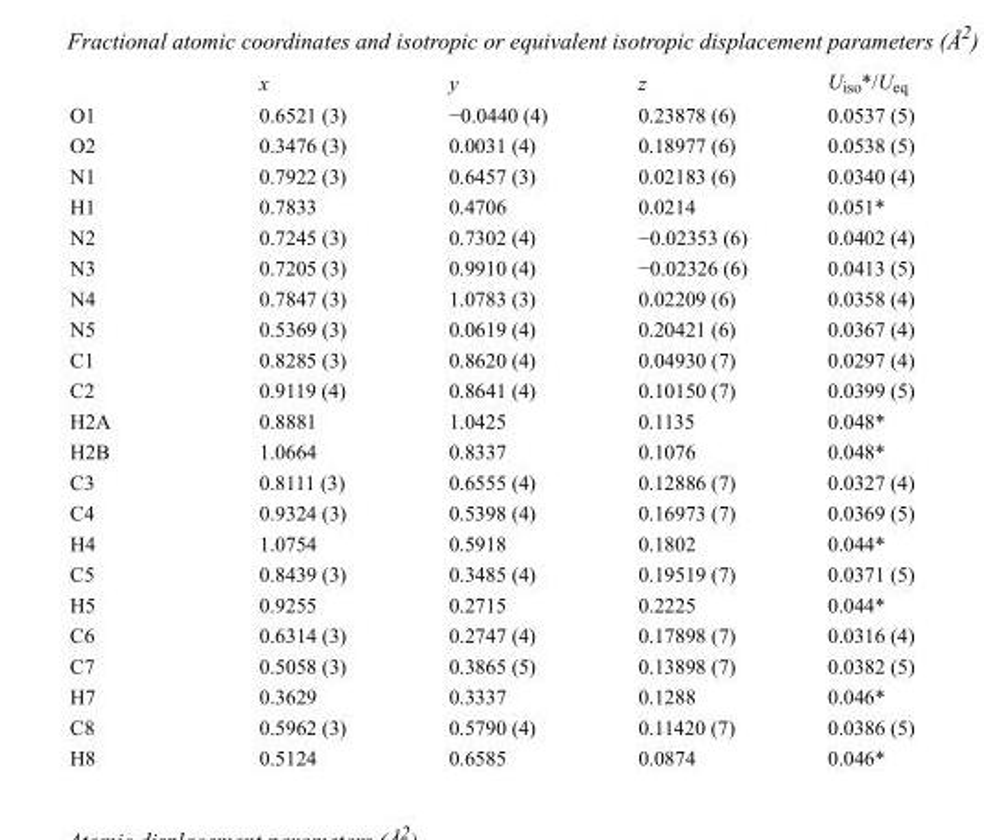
<table><thead><tr><td></td><td>x</td><td>y</td><td>z</td><td>U<sub>iso</sub>*/U<sub>eq</sub></td></tr></thead><tbody><tr><td>O1</td><td>0.6521 (3)</td><td>−0.0440 (4)</td><td>0.23878 (6)</td><td>0.0537 (5)</td></tr><tr><td>O2</td><td>0.3476 (3)</td><td>0.0031 (4)</td><td>0.18977 (6)</td><td>0.0538 (5)</td></tr><tr><td>N1</td><td>0.7922 (3)</td><td>0.6457 (3)</td><td>0.02183 (6)</td><td>0.0340 (4)</td></tr><tr><td>H1</td><td>0.7833</td><td>0.4706</td><td>0.0214</td><td>0.051*</td></tr><tr><td>N2</td><td>0.7245 (3)</td><td>0.7302 (4)</td><td>−0.02353 (6)</td><td>0.0402 (4)</td></tr><tr><td>N3</td><td>0.7205 (3)</td><td>0.9910 (4)</td><td>−0.02326 (6)</td><td>0.0413 (5)</td></tr><tr><td>N4</td><td>0.7847 (3)</td><td>1.0783 (3)</td><td>0.02209 (6)</td><td>0.0358 (4)</td></tr><tr><td>N5</td><td>0.5369 (3)</td><td>0.0619 (4)</td><td>0.20421 (6)</td><td>0.0367 (4)</td></tr><tr><td>C1</td><td>0.8285 (3)</td><td>0.8620 (4)</td><td>0.04930 (7)</td><td>0.0297 (4)</td></tr><tr><td>C2</td><td>0.9119 (4)</td><td>0.8641 (4)</td><td>0.10150 (7)</td><td>0.0399 (5)</td></tr><tr><td>H2A</td><td>0.8881</td><td>1.0425</td><td>0.1135</td><td>0.048*</td></tr><tr><td>H2B</td><td>1.0664</td><td>0.8337</td><td>0.1076</td><td>0.048*</td></tr><tr><td>C3</td><td>0.8111 (3)</td><td>0.6555 (4)</td><td>0.12886 (7)</td><td>0.0327 (4)</td></tr><tr><td>C4</td><td>0.9324 (3)</td><td>0.5398 (4)</td><td>0.16973 (7)</td><td>0.0369 (5)</td></tr><tr><td>H4</td><td>1.0754</td><td>0.5918</td><td>0.1802</td><td>0.044*</td></tr><tr><td>C5</td><td>0.8439 (3)</td><td>0.3485 (4)</td><td>0.19519 (7)</td><td>0.0371 (5)</td></tr><tr><td>H5</td><td>0.9255</td><td>0.2715</td><td>0.2225</td><td>0.044*</td></tr><tr><td>C6</td><td>0.6314 (3)</td><td>0.2747 (4)</td><td>0.17898 (7)</td><td>0.0316 (4)</td></tr><tr><td>C7</td><td>0.5058 (3)</td><td>0.3865 (5)</td><td>0.13898 (7)</td><td>0.0382 (5)</td></tr><tr><td>H7</td><td>0.3629</td><td>0.3337</td><td>0.1288</td><td>0.046*</td></tr><tr><td>C8</td><td>0.5962 (3)</td><td>0.5790 (4)</td><td>0.11420 (7)</td><td>0.0386 (5)</td></tr><tr><td>H8</td><td>0.5124</td><td>0.6585</td><td>0.0874</td><td>0.046*</td></tr></tbody></table>